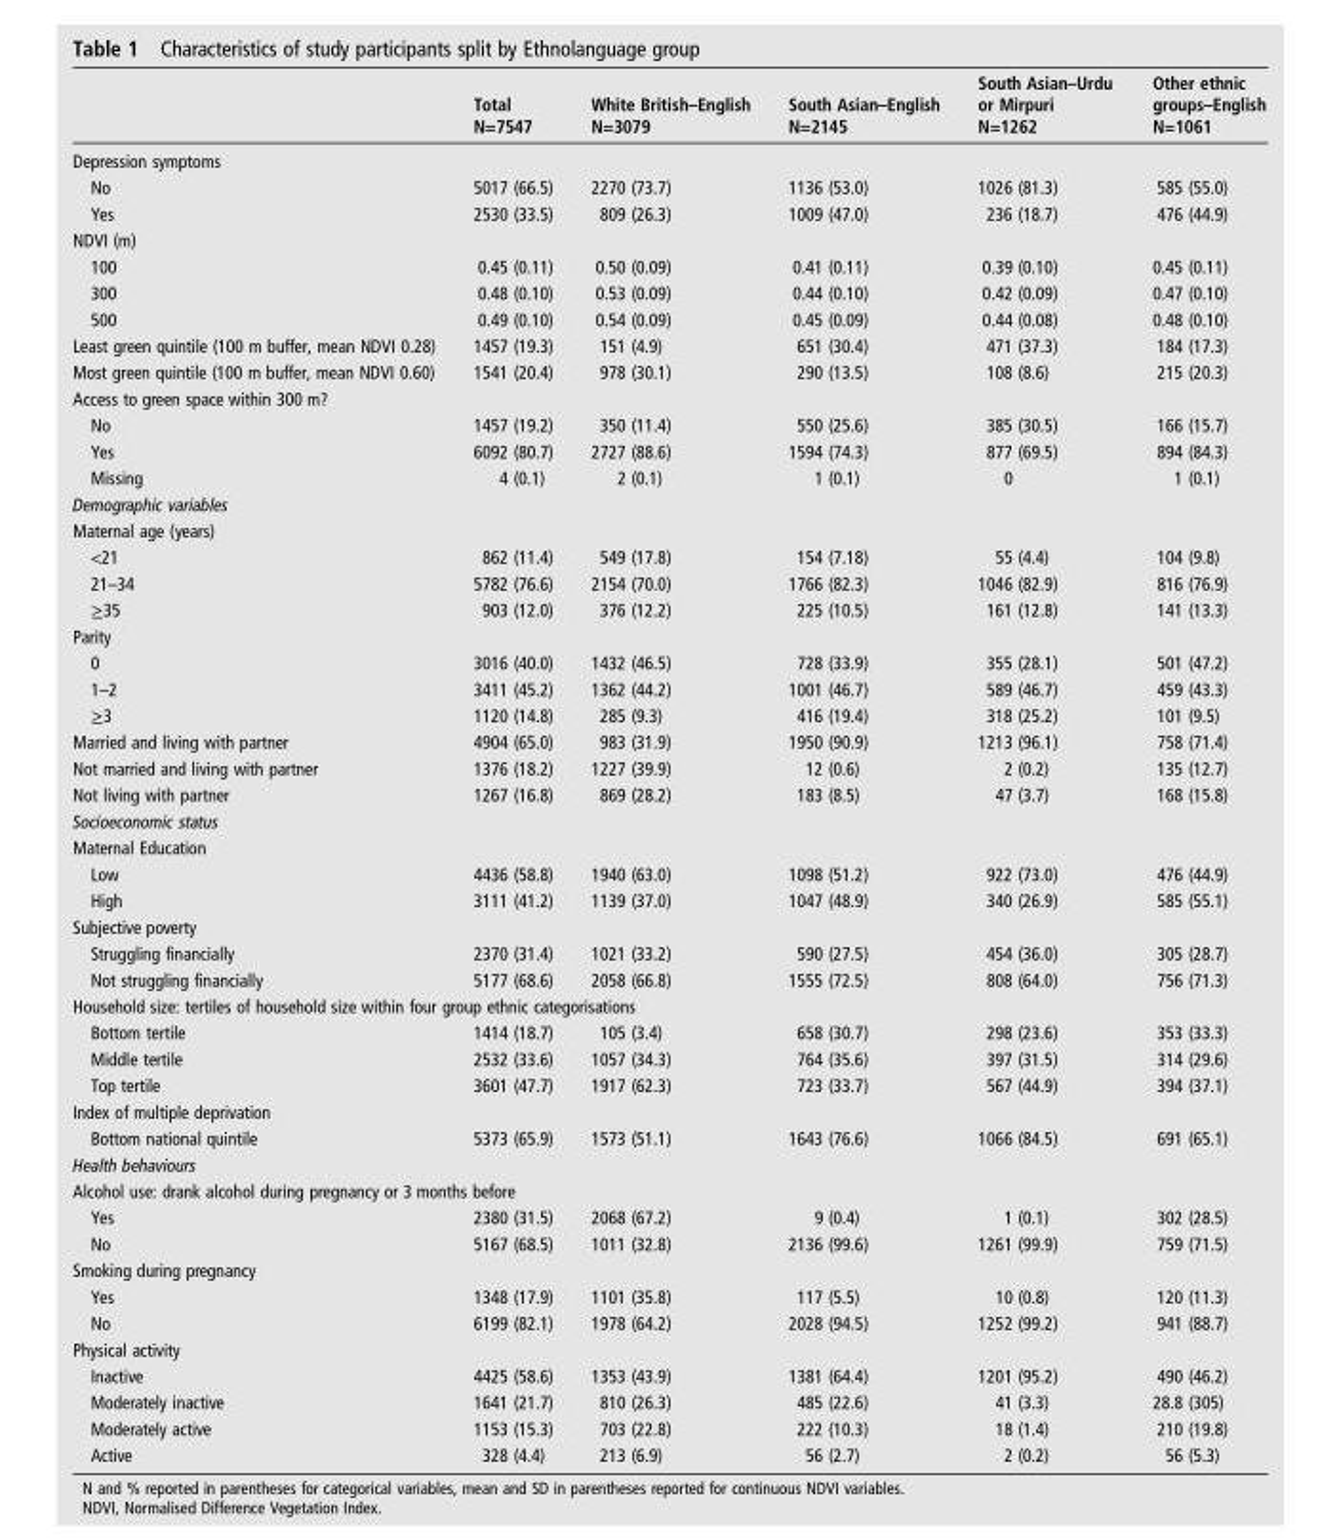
<table><thead><tr><td></td><td>Total N=7547</td><td>White British–English N=3079</td><td>South Asian–English N=2145</td><td>South Asian–Urdu or Mirpuri N=1262</td><td>Other ethnic groups–English N=1061</td></tr></thead><tbody><tr><td colspan="6">Depression symptoms</td></tr><tr><td>No</td><td>5017 (66.5)</td><td>2270 (73.7)</td><td>1136 (53.0)</td><td>1026 (81.3)</td><td>585 (55.0)</td></tr><tr><td>Yes</td><td>2530 (33.5)</td><td>809 (26.3)</td><td>1009 (47.0)</td><td>236 (18.7)</td><td>476 (44.9)</td></tr><tr><td colspan="6">NDVI (m)</td></tr><tr><td>100</td><td>0.45 (0.11)</td><td>0.50 (0.09)</td><td>0.41 (0.11)</td><td>0.39 (0.10)</td><td>0.45 (0.11)</td></tr><tr><td>300</td><td>0.48 (0.10)</td><td>0.53 (0.09)</td><td>0.44 (0.10)</td><td>0.42 (0.09)</td><td>0.47 (0.10)</td></tr><tr><td>500</td><td>0.49 (0.10)</td><td>0.54 (0.09)</td><td>0.45 (0.09)</td><td>0.44 (0.08)</td><td>0.48 (0.10)</td></tr><tr><td>Least green quintile (100 m buffer, mean NDVI 0.28)</td><td>1457 (19.3)</td><td>151 (4.9)</td><td>651 (30.4)</td><td>471 (37.3)</td><td>184 (17.3)</td></tr><tr><td>Most green quintile (100 m buffer, mean NDVI 0.60)</td><td>1541 (20.4)</td><td>978 (30.1)</td><td>290 (13.5)</td><td>108 (8.6)</td><td>215 (20.3)</td></tr><tr><td colspan="6">Access to green space within 300 m?</td></tr><tr><td>No</td><td>1457 (19.2)</td><td>350 (11.4)</td><td>550 (25.6)</td><td>385 (30.5)</td><td>166 (15.7)</td></tr><tr><td>Yes</td><td>6092 (80.7)</td><td>2727 (88.6)</td><td>1594 (74.3)</td><td>877 (69.5)</td><td>894 (84.3)</td></tr><tr><td>Missing</td><td>4 (0.1)</td><td>2 (0.1)</td><td>1 (0.1)</td><td>0</td><td>1 (0.1)</td></tr><tr><td colspan="6">Demographic variables</td></tr><tr><td colspan="6">Maternal age (years)</td></tr><tr><td>&lt;21</td><td>862 (11.4)</td><td>549 (17.8)</td><td>154 (7.18)</td><td>55 (4.4)</td><td>104 (9.8)</td></tr><tr><td>21–34</td><td>5782 (76.6)</td><td>2154 (70.0)</td><td>1766 (82.3)</td><td>1046 (82.9)</td><td>816 (76.9)</td></tr><tr><td>≥35</td><td>903 (12.0)</td><td>376 (12.2)</td><td>225 (10.5)</td><td>161 (12.8)</td><td>141 (13.3)</td></tr><tr><td colspan="6">Parity</td></tr><tr><td>0</td><td>3016 (40.0)</td><td>1432 (46.5)</td><td>728 (33.9)</td><td>355 (28.1)</td><td>501 (47.2)</td></tr><tr><td>1–2</td><td>3411 (45.2)</td><td>1362 (44.2)</td><td>1001 (46.7)</td><td>589 (46.7)</td><td>459 (43.3)</td></tr><tr><td>≥3</td><td>1120 (14.8)</td><td>285 (9.3)</td><td>416 (19.4)</td><td>318 (25.2)</td><td>101 (9.5)</td></tr><tr><td>Married and living with partner</td><td>4904 (65.0)</td><td>983 (31.9)</td><td>1950 (90.9)</td><td>1213 (96.1)</td><td>758 (71.4)</td></tr><tr><td>Not married and living with partner</td><td>1376 (18.2)</td><td>1227 (39.9)</td><td>12 (0.6)</td><td>2 (0.2)</td><td>135 (12.7)</td></tr><tr><td>Not living with partner</td><td>1267 (16.8)</td><td>869 (28.2)</td><td>183 (8.5)</td><td>47 (3.7)</td><td>168 (15.8)</td></tr><tr><td colspan="6">Socioeconomic status</td></tr><tr><td colspan="6">Maternal Education</td></tr><tr><td>Low</td><td>4436 (58.8)</td><td>1940 (63.0)</td><td>1098 (51.2)</td><td>922 (73.0)</td><td>476 (44.9)</td></tr><tr><td>High</td><td>3111 (41.2)</td><td>1139 (37.0)</td><td>1047 (48.9)</td><td>340 (26.9)</td><td>585 (55.1)</td></tr><tr><td colspan="6">Subjective poverty</td></tr><tr><td>Struggling financially</td><td>2370 (31.4)</td><td>1021 (33.2)</td><td>590 (27.5)</td><td>454 (36.0)</td><td>305 (28.7)</td></tr><tr><td>Not struggling financially</td><td>5177 (68.6)</td><td>2058 (66.8)</td><td>1555 (72.5)</td><td>808 (64.0)</td><td>756 (71.3)</td></tr><tr><td colspan="6">Household size: tertiles of household size within four group ethnic categorisations</td></tr><tr><td>Bottom tertile</td><td>1414 (18.7)</td><td>105 (3.4)</td><td>658 (30.7)</td><td>298 (23.6)</td><td>353 (33.3)</td></tr><tr><td>Middle tertile</td><td>2532 (33.6)</td><td>1057 (34.3)</td><td>764 (35.6)</td><td>397 (31.5)</td><td>314 (29.6)</td></tr><tr><td>Top tertile</td><td>3601 (47.7)</td><td>1917 (62.3)</td><td>723 (33.7)</td><td>567 (44.9)</td><td>394 (37.1)</td></tr><tr><td colspan="6">Index of multiple deprivation</td></tr><tr><td>Bottom national quintile</td><td>5373 (65.9)</td><td>1573 (51.1)</td><td>1643 (76.6)</td><td>1066 (84.5)</td><td>691 (65.1)</td></tr><tr><td colspan="6">Health behaviours</td></tr><tr><td colspan="6">Alcohol use: drank alcohol during pregnancy or 3 months before</td></tr><tr><td>Yes</td><td>2380 (31.5)</td><td>2068 (67.2)</td><td>9 (0.4)</td><td>1 (0.1)</td><td>302 (28.5)</td></tr><tr><td>No</td><td>5167 (68.5)</td><td>1011 (32.8)</td><td>2136 (99.6)</td><td>1261 (99.9)</td><td>759 (71.5)</td></tr><tr><td colspan="6">Smoking during pregnancy</td></tr><tr><td>Yes</td><td>1348 (17.9)</td><td>1101 (35.8)</td><td>117 (5.5)</td><td>10 (0.8)</td><td>120 (11.3)</td></tr><tr><td>No</td><td>6199 (82.1)</td><td>1978 (64.2)</td><td>2028 (94.5)</td><td>1252 (99.2)</td><td>941 (88.7)</td></tr><tr><td colspan="6">Physical activity</td></tr><tr><td>Inactive</td><td>4425 (58.6)</td><td>1353 (43.9)</td><td>1381 (64.4)</td><td>1201 (95.2)</td><td>490 (46.2)</td></tr><tr><td>Moderately inactive</td><td>1641 (21.7)</td><td>810 (26.3)</td><td>485 (22.6)</td><td>41 (3.3)</td><td>28.8 (305)</td></tr><tr><td>Moderately active</td><td>1153 (15.3)</td><td>703 (22.8)</td><td>222 (10.3)</td><td>18 (1.4)</td><td>210 (19.8)</td></tr><tr><td>Active</td><td>328 (4.4)</td><td>213 (6.9)</td><td>56 (2.7)</td><td>2 (0.2)</td><td>56 (5.3)</td></tr></tbody></table>